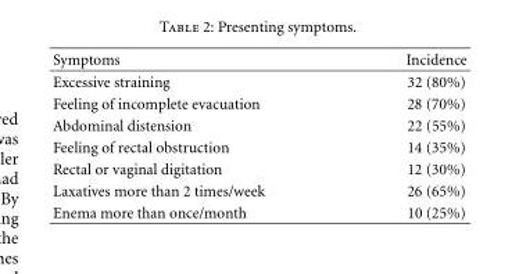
<table><thead><tr><td>Symptoms</td><td>Incidence</td></tr></thead><tbody><tr><td>Excessive straining</td><td>32 (80%)</td></tr><tr><td>Feeling of incomplete evacuation</td><td>28 (70%)</td></tr><tr><td>Abdominal distension</td><td>22 (55%)</td></tr><tr><td>Feeling of rectal obstruction</td><td>14 (35%)</td></tr><tr><td>Rectal or vaginal digitation</td><td>12 (30%)</td></tr><tr><td>Laxatives more than 2 times/week</td><td>26 (65%)</td></tr><tr><td>Enema more than once/month</td><td>10 (25%)</td></tr></tbody></table>